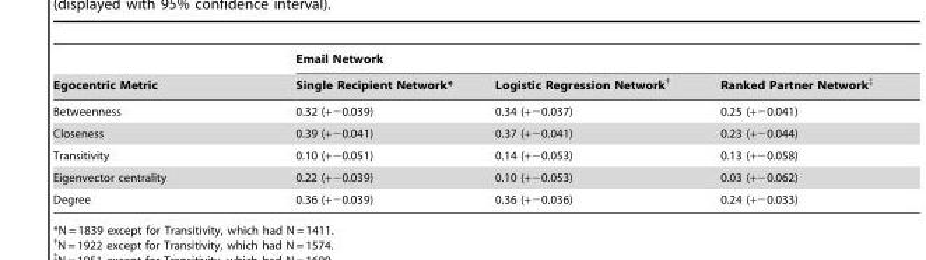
<table><thead><tr><td rowspan="2">Egocentric Metric</td><td colspan="3">Email Network</td></tr><tr><td>Single Recipient Network*</td><td>Logistic Regression Network†</td><td>Ranked Partner Network‡</td></tr></thead><tbody><tr><td>Betweenness</td><td>0.32 (+−0.039)</td><td>0.34 (+−0.037)</td><td>0.25 (+−0.041)</td></tr><tr><td>Closeness</td><td>0.39 (+−0.041)</td><td>0.37 (+−0.041)</td><td>0.23 (+−0.044)</td></tr><tr><td>Transitivity</td><td>0.10 (+−0.051)</td><td>0.14 (+−0.053)</td><td>0.13 (+−0.058)</td></tr><tr><td>Eigenvector centrality</td><td>0.22 (+−0.039)</td><td>0.10 (+−0.053)</td><td>0.03 (+−0.062)</td></tr><tr><td>Degree</td><td>0.36 (+−0.039)</td><td>0.36 (+−0.036)</td><td>0.24 (+−0.033)</td></tr></tbody></table>